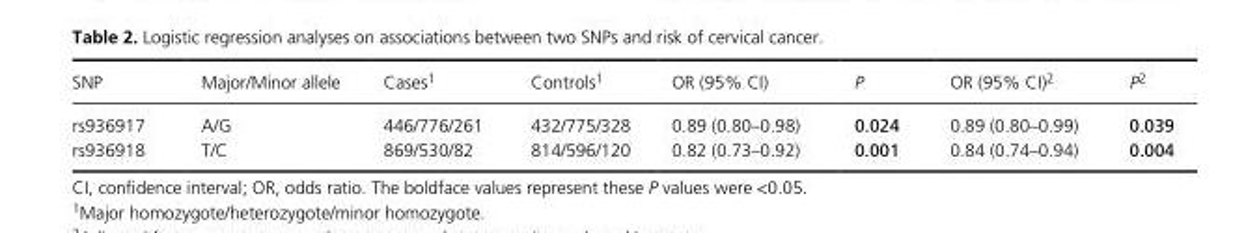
<table><thead><tr><td>SNP</td><td>Major/Minor allele</td><td>Cases1</td><td>Controls1</td><td>OR (95% CI)</td><td>P</td><td>OR (95% CI)2</td><td>P2</td></tr></thead><tbody><tr><td>rs936917</td><td>A/G</td><td>446/776/261</td><td>432/775/328</td><td>0.89 (0.80–0.98)</td><td>0.024</td><td>0.89 (0.80–0.99)</td><td>0.039</td></tr><tr><td>rs936918</td><td>T/C</td><td>869/530/82</td><td>814/596/120</td><td>0.82 (0.73–0.92)</td><td>0.001</td><td>0.84 (0.74–0.94)</td><td>0.004</td></tr></tbody></table>